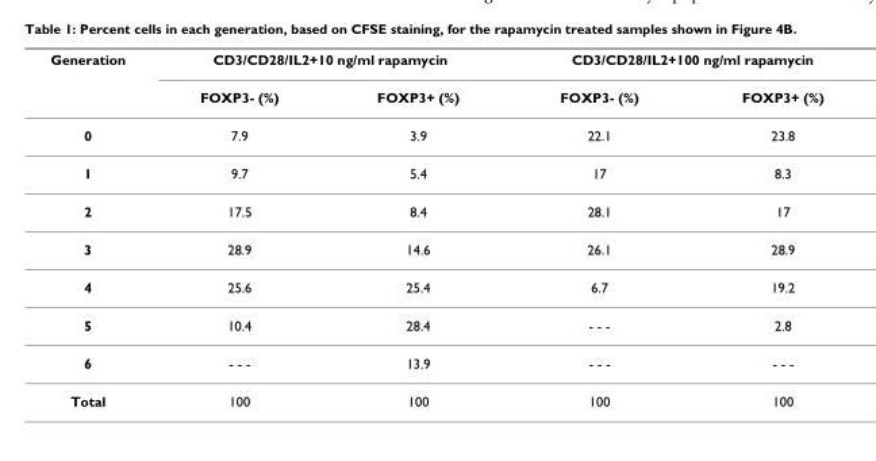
<table><thead><tr><td rowspan="2">Generation</td><td colspan="2">CD3/CD28/IL2+10 ng/ml rapamycin</td><td colspan="2">CD3/CD28/IL2+100 ng/ml rapamycin</td></tr><tr><td>FOXP3- (%)</td><td>FOXP3+ (%)</td><td>FOXP3- (%)</td><td>FOXP3+ (%)</td></tr></thead><tbody><tr><td>0</td><td>7.9</td><td>3.9</td><td>22.1</td><td>23.8</td></tr><tr><td>1</td><td>9.7</td><td>5.4</td><td>17</td><td>8.3</td></tr><tr><td>2</td><td>17.5</td><td>8.4</td><td>28.1</td><td>17</td></tr><tr><td>3</td><td>28.9</td><td>14.6</td><td>26.1</td><td>28.9</td></tr><tr><td>4</td><td>25.6</td><td>25.4</td><td>6.7</td><td>19.2</td></tr><tr><td>5</td><td>10.4</td><td>28.4</td><td>- - -</td><td>2.8</td></tr><tr><td>6</td><td>- - -</td><td>13.9</td><td>- - -</td><td>- - -</td></tr><tr><td>Total</td><td>100</td><td>100</td><td>100</td><td>100</td></tr></tbody></table>